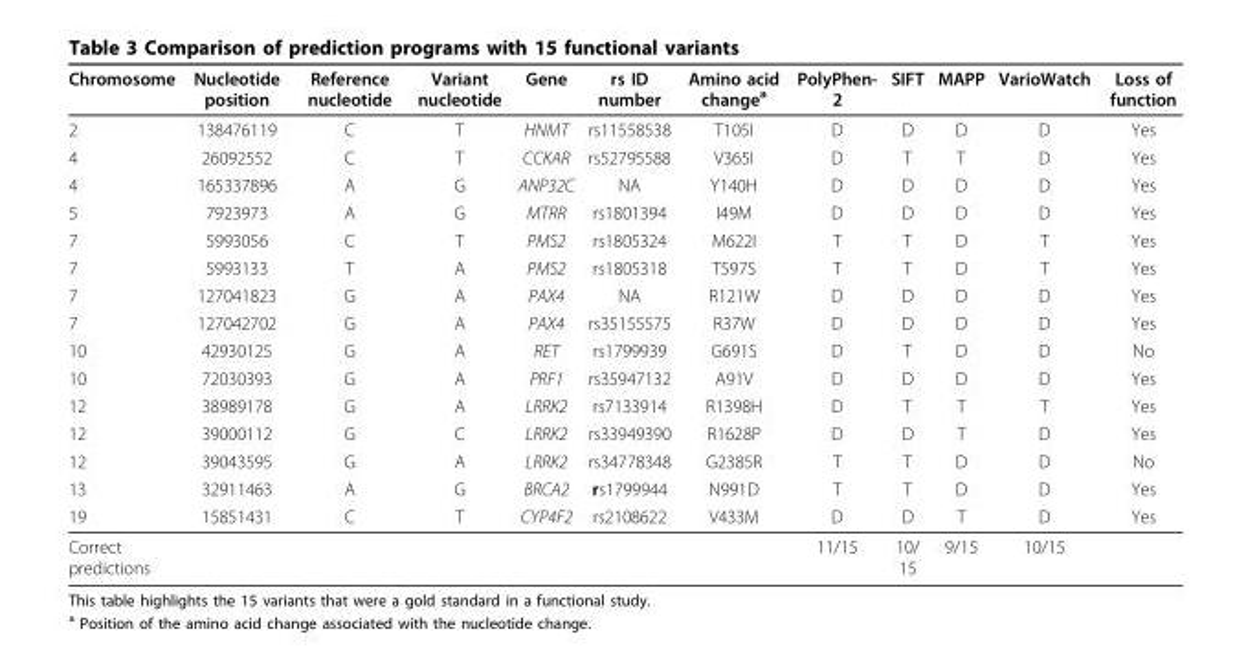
<table><thead><tr><td>Chromosome</td><td>Nucleotide position</td><td>Reference nucleotide</td><td>Variant nucleotide</td><td>Gene</td><td>rs ID number</td><td>Amino acid change<sup>a</sup></td><td>PolyPhen- 2</td><td>SIFT</td><td>MAPP</td><td>VarioWatch</td><td>Loss of function</td></tr></thead><tbody><tr><td>2</td><td>138476119</td><td>C</td><td>T</td><td>HNMT</td><td>rs11558538</td><td>T105I</td><td>D</td><td>D</td><td>D</td><td>D</td><td>Yes</td></tr><tr><td>4</td><td>26092552</td><td>C</td><td>T</td><td>CCKAR</td><td>rs52795588</td><td>V365I</td><td>D</td><td>T</td><td>T</td><td>D</td><td>Yes</td></tr><tr><td>4</td><td>165337896</td><td>A</td><td>G</td><td>ANP32C</td><td>NA</td><td>Y140H</td><td>D</td><td>D</td><td>D</td><td>D</td><td>Yes</td></tr><tr><td>5</td><td>7923973</td><td>A</td><td>G</td><td>MTRR</td><td>rs1801394</td><td>I49M</td><td>D</td><td>D</td><td>D</td><td>D</td><td>Yes</td></tr><tr><td>7</td><td>5993056</td><td>C</td><td>T</td><td>PMS2</td><td>rs1805324</td><td>M622I</td><td>T</td><td>T</td><td>D</td><td>T</td><td>Yes</td></tr><tr><td>7</td><td>5993133</td><td>T</td><td>A</td><td>PMS2</td><td>rs1805318</td><td>T597S</td><td>T</td><td>T</td><td>D</td><td>T</td><td>Yes</td></tr><tr><td>7</td><td>127041823</td><td>G</td><td>A</td><td>PAX4</td><td>NA</td><td>R121W</td><td>D</td><td>D</td><td>D</td><td>D</td><td>Yes</td></tr><tr><td>7</td><td>127042702</td><td>G</td><td>A</td><td>PAX4</td><td>rs35155575</td><td>R37W</td><td>D</td><td>D</td><td>D</td><td>D</td><td>Yes</td></tr><tr><td>10</td><td>42930125</td><td>G</td><td>A</td><td>RET</td><td>rs1799939</td><td>G691S</td><td>D</td><td>T</td><td>D</td><td>D</td><td>No</td></tr><tr><td>10</td><td>72030393</td><td>G</td><td>A</td><td>PRF1</td><td>rs35947132</td><td>A91V</td><td>D</td><td>D</td><td>D</td><td>D</td><td>Yes</td></tr><tr><td>12</td><td>38989178</td><td>G</td><td>A</td><td>LRRK2</td><td>rs7133914</td><td>R1398H</td><td>D</td><td>T</td><td>T</td><td>T</td><td>Yes</td></tr><tr><td>12</td><td>39000112</td><td>G</td><td>C</td><td>LRRK2</td><td>rs33949390</td><td>R1628P</td><td>D</td><td>D</td><td>T</td><td>D</td><td>Yes</td></tr><tr><td>12</td><td>39043595</td><td>G</td><td>A</td><td>LRRK2</td><td>rs34778348</td><td>G2385R</td><td>T</td><td>T</td><td>D</td><td>D</td><td>No</td></tr><tr><td>13</td><td>32911463</td><td>A</td><td>G</td><td>BRCA2</td><td>rs1799944</td><td>N991D</td><td>T</td><td>T</td><td>D</td><td>D</td><td>Yes</td></tr><tr><td>19</td><td>15851431</td><td>C</td><td>T</td><td>CYP4F2</td><td>rs2108622</td><td>V433M</td><td>D</td><td>D</td><td>T</td><td>D</td><td>Yes</td></tr><tr><td>Correct predictions</td><td></td><td></td><td></td><td></td><td></td><td></td><td>11/15</td><td>10/ 15</td><td>9/15</td><td>10/15</td><td></td></tr></tbody></table>